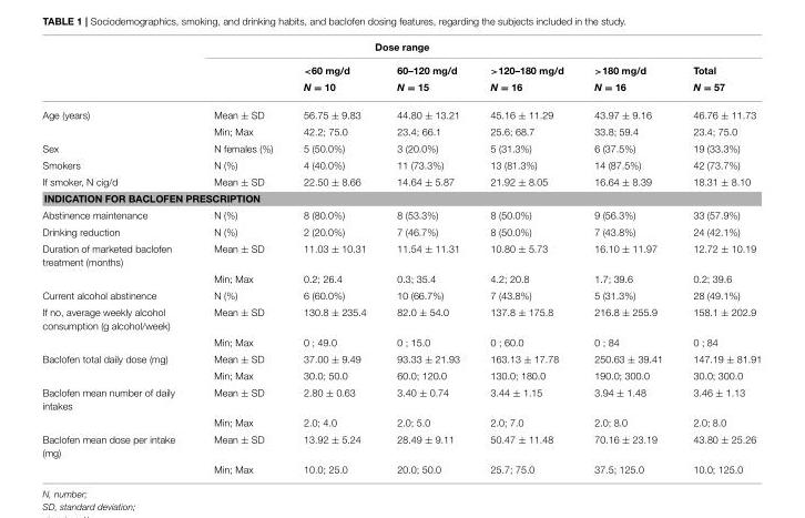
<table><thead><tr><td colspan="7">Dose range</td></tr><tr><td rowspan="2"></td><td rowspan="2"></td><td rowspan="2">&lt;60 mg/d N = 10</td><td rowspan="2">60–120 mg/d N = 15</td><td rowspan="2">&gt;120–180 mg/d N = 16</td><td rowspan="2">&gt;180 mg/d N = 16</td><td rowspan="2">Total N = 57</td></tr><tr></tr></thead><tbody><tr><td rowspan="2">Age (years)</td><td>Mean ± SD</td><td>56.75 ± 9.83</td><td>44.80 ± 13.21</td><td>45.16 ± 11.29</td><td>43.97 ± 9.16</td><td>46.76 ± 11.73</td></tr><tr><td>Min; Max</td><td>42.2; 75.0</td><td>23.4; 66.1</td><td>25.6; 68.7</td><td>33.8; 59.4</td><td>23.4; 75.0</td></tr><tr><td>Sex</td><td>N females (%)</td><td>5 (50.0%)</td><td>3 (20.0%)</td><td>5 (31.3%)</td><td>6 (37.5%)</td><td>19 (33.3%)</td></tr><tr><td>Smokers</td><td>N (%)</td><td>4 (40.0%)</td><td>11 (73.3%)</td><td>13 (81.3%)</td><td>14 (87.5%)</td><td>42 (73.7%)</td></tr><tr><td>If smoker, N cig/d</td><td>Mean ± SD</td><td>22.50 ± 8.66</td><td>14.64 ± 5.87</td><td>21.92 ± 8.05</td><td>16.64 ± 8.39</td><td>18.31 ± 8.10</td></tr><tr><td colspan="7">INDICATION FOR BACLOFEN PRESCRIPTION</td></tr><tr><td>Abstinence maintenance</td><td>N (%)</td><td>8 (80.0%)</td><td>8 (53.3%)</td><td>8 (50.0%)</td><td>9 (56.3%)</td><td>33 (57.9%)</td></tr><tr><td>Drinking reduction</td><td>N (%)</td><td>2 (20.0%)</td><td>7 (46.7%)</td><td>8 (50.0%)</td><td>7 (43.8%)</td><td>24 (42.1%)</td></tr><tr><td rowspan="2">Duration of marketed baclofen treatment (months)</td><td>Mean ± SD</td><td>11.03 ± 10.31</td><td>11.54 ± 11.31</td><td>10.80 ± 5.73</td><td>16.10 ± 11.97</td><td>12.72 ± 10.19</td></tr><tr><td>Min; Max</td><td>0.2; 26.4</td><td>0.3; 35.4</td><td>4.2; 20.8</td><td>1.7; 39.6</td><td>0.2; 39.6</td></tr><tr><td>Current alcohol abstinence</td><td>N (%)</td><td>6 (60.0%)</td><td>10 (66.7%)</td><td>7 (43.8%)</td><td>5 (31.3%)</td><td>28 (49.1%)</td></tr><tr><td rowspan="2">If no, average weekly alcohol consumption (g alcohol/week)</td><td>Mean ± SD</td><td>130.8 ± 235.4</td><td>82.0 ± 54.0</td><td>137.8 ± 175.8</td><td>216.8 ± 255.9</td><td>158.1 ± 202.9</td></tr><tr><td>Min; Max</td><td>0 ; 49.0</td><td>0 ; 15.0</td><td>0 ; 60.0</td><td>0 ; 84</td><td>0 ; 84</td></tr><tr><td rowspan="2">Baclofen total daily dose (mg)</td><td>Mean ± SD</td><td>37.00 ± 9.49</td><td>93.33 ± 21.93</td><td>163.13 ± 17.78</td><td>250.63 ± 39.41</td><td>147.19 ± 81.91</td></tr><tr><td>Min; Max</td><td>30.0; 50.0</td><td>60.0; 120.0</td><td>130.0; 180.0</td><td>190.0; 300.0</td><td>30.0; 300.0</td></tr><tr><td rowspan="2">Baclofen mean number of daily intakes</td><td>Mean ± SD</td><td>2.80 ± 0.63</td><td>3.40 ± 0.74</td><td>3.44 ± 1.15</td><td>3.94 ± 1.48</td><td>3.46 ± 1.13</td></tr><tr><td>Min; Max</td><td>2.0; 4.0</td><td>2.0; 5.0</td><td>2.0; 7.0</td><td>2.0; 8.0</td><td>2.0; 8.0</td></tr><tr><td rowspan="2">Baclofen mean dose per intake (mg)</td><td>Mean ± SD</td><td>13.92 ± 5.24</td><td>28.49 ± 9.11</td><td>50.47 ± 11.48</td><td>70.16 ± 23.19</td><td>43.80 ± 25.26</td></tr><tr><td>Min; Max</td><td>10.0; 25.0</td><td>20.0; 50.0</td><td>25.7; 75.0</td><td>37.5; 125.0</td><td>10.0; 125.0</td></tr></tbody></table>